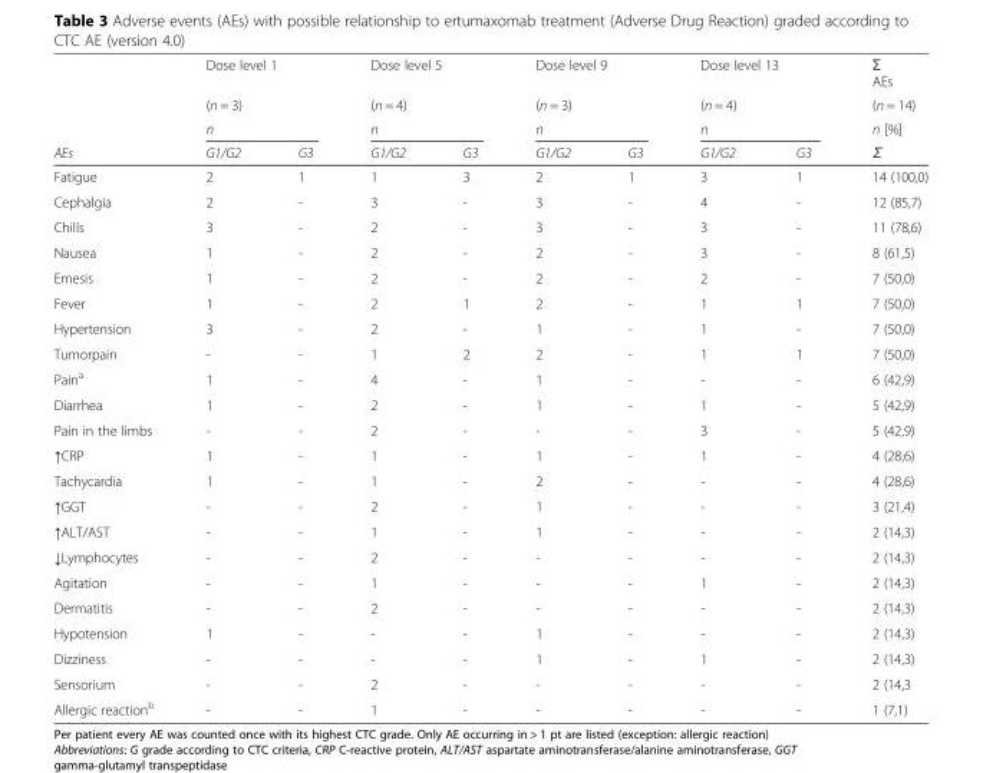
<table><thead><tr><td rowspan="4">AEs</td><td rowspan="3" colspan="2">Dose level 1 (n = 3) n</td><td rowspan="3" colspan="2">Dose level 5 (n = 4) n</td><td rowspan="3" colspan="2">Dose level 9 (n = 3) n</td><td rowspan="3" colspan="2">Dose level 13 (n = 4) n</td><td rowspan="4">Ʃ AEs (n = 14) n [%] Ʃ</td></tr><tr></tr><tr></tr><tr><td>G1/G2</td><td>G3</td><td>G1/G2</td><td>G3</td><td>G1/G2</td><td>G3</td><td>G1/G2</td><td>G3</td></tr></thead><tbody><tr><td>Fatigue</td><td>2</td><td>1</td><td>1</td><td>3</td><td>2</td><td>1</td><td>3</td><td>1</td><td>14 (100,0)</td></tr><tr><td>Cephalgia</td><td>2</td><td>-</td><td>3</td><td>-</td><td>3</td><td>-</td><td>4</td><td>-</td><td>12 (85,7)</td></tr><tr><td>Chills</td><td>3</td><td>-</td><td>2</td><td>-</td><td>3</td><td>-</td><td>3</td><td>-</td><td>11 (78,6)</td></tr><tr><td>Nausea</td><td>1</td><td>-</td><td>2</td><td>-</td><td>2</td><td>-</td><td>3</td><td>-</td><td>8 (61,5)</td></tr><tr><td>Emesis</td><td>1</td><td>-</td><td>2</td><td>-</td><td>2</td><td>-</td><td>2</td><td>-</td><td>7 (50,0)</td></tr><tr><td>Fever</td><td>1</td><td>-</td><td>2</td><td>1</td><td>2</td><td>-</td><td>1</td><td>1</td><td>7 (50,0)</td></tr><tr><td>Hypertension</td><td>3</td><td>-</td><td>2</td><td>-</td><td>1</td><td>-</td><td>1</td><td>-</td><td>7 (50,0)</td></tr><tr><td>Tumorpain</td><td>-</td><td>-</td><td>1</td><td>2</td><td>2</td><td>-</td><td>1</td><td>1</td><td>7 (50,0)</td></tr><tr><td>Pain<sup>a</sup></td><td>1</td><td>-</td><td>4</td><td>-</td><td>1</td><td>-</td><td>-</td><td>-</td><td>6 (42,9)</td></tr><tr><td>Diarrhea</td><td>1</td><td>-</td><td>2</td><td>-</td><td>1</td><td>-</td><td>1</td><td>-</td><td>5 (42,9)</td></tr><tr><td>Pain in the limbs</td><td>-</td><td>-</td><td>2</td><td>-</td><td>-</td><td>-</td><td>3</td><td>-</td><td>5 (42,9)</td></tr><tr><td>↑CRP</td><td>1</td><td>-</td><td>1</td><td>-</td><td>1</td><td>-</td><td>1</td><td>-</td><td>4 (28,6)</td></tr><tr><td>Tachycardia</td><td>1</td><td>-</td><td>1</td><td>-</td><td>2</td><td>-</td><td>-</td><td>-</td><td>4 (28,6)</td></tr><tr><td>↑GGT</td><td>-</td><td>-</td><td>2</td><td>-</td><td>1</td><td>-</td><td>-</td><td>-</td><td>3 (21,4)</td></tr><tr><td>↑ALT/AST</td><td>-</td><td>-</td><td>1</td><td>-</td><td>1</td><td>-</td><td>-</td><td>-</td><td>2 (14,3)</td></tr><tr><td>↓Lymphocytes</td><td>-</td><td>-</td><td>2</td><td>-</td><td>-</td><td>-</td><td>-</td><td>-</td><td>2 (14,3)</td></tr><tr><td>Agitation</td><td>-</td><td>-</td><td>1</td><td>-</td><td>-</td><td>-</td><td>1</td><td>-</td><td>2 (14,3)</td></tr><tr><td>Dermatitis</td><td>-</td><td>-</td><td>2</td><td>-</td><td>-</td><td>-</td><td>-</td><td>-</td><td>2 (14,3)</td></tr><tr><td>Hypotension</td><td>1</td><td>-</td><td>-</td><td>-</td><td>1</td><td>-</td><td>-</td><td>-</td><td>2 (14,3)</td></tr><tr><td>Dizziness</td><td>-</td><td>-</td><td>-</td><td>-</td><td>1</td><td>-</td><td>1</td><td>-</td><td>2 (14,3)</td></tr><tr><td>Sensorium</td><td>-</td><td>-</td><td>2</td><td>-</td><td>-</td><td>-</td><td>-</td><td>-</td><td>2 (14,3</td></tr><tr><td>Allergic reaction<sup>b</sup></td><td>-</td><td>-</td><td>1</td><td>-</td><td>-</td><td>-</td><td>-</td><td>-</td><td>1 (7,1)</td></tr></tbody></table>